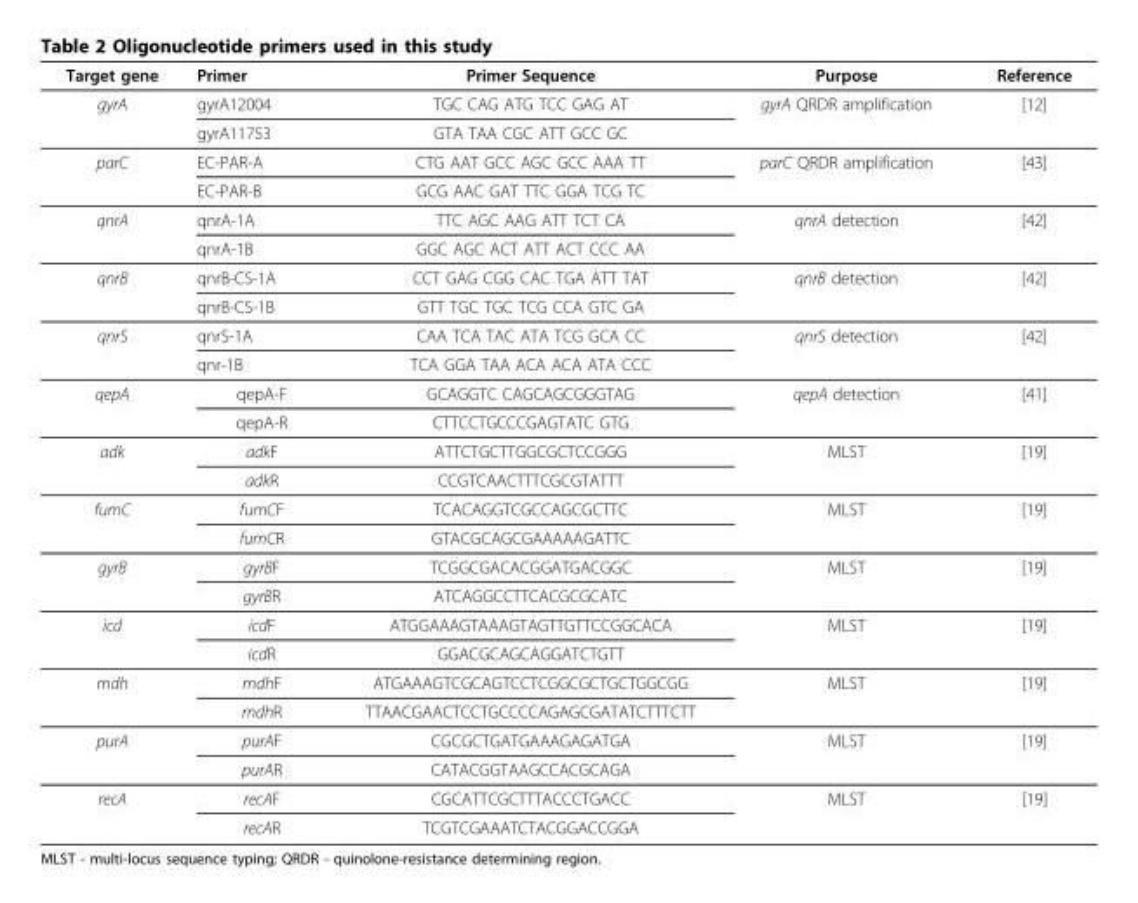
<table><thead><tr><td>Target gene</td><td>Primer</td><td>Primer Sequence</td><td>Purpose</td><td>Reference</td></tr></thead><tbody><tr><td rowspan="2">gyrA</td><td>gyrA12004</td><td>TGC CAG ATG TCC GAG AT</td><td>gyrA QRDR amplification</td><td>[12]</td></tr><tr><td>gyrA11753</td><td>GTA TAA CGC ATT GCC GC</td><td></td><td></td></tr><tr><td rowspan="2">parC</td><td>EC-PAR-A</td><td>CTG AAT GCC AGC GCC AAA TT</td><td>parC QRDR amplification</td><td>[43]</td></tr><tr><td>EC-PAR-B</td><td>GCG AAC GAT TTC GGA TCG TC</td><td></td><td></td></tr><tr><td rowspan="2">qnrA</td><td>qnrA-1A</td><td>TTC AGC AAG ATT TCT CA</td><td>qnrA detection</td><td>[42]</td></tr><tr><td>qnrA-1B</td><td>GGC AGC ACT ATT ACT CCC AA</td><td></td><td></td></tr><tr><td rowspan="2">qnrB</td><td>qnrB-CS-1A</td><td>CCT GAG CGG CAC TGA ATT TAT</td><td>qnrB detection</td><td>[42]</td></tr><tr><td>qnrB-CS-1B</td><td>GTT TGC TGC TCG CCA GTC GA</td><td></td><td></td></tr><tr><td rowspan="2">qnrS</td><td>qnrS-1A</td><td>CAA TCA TAC ATA TCG GCA CC</td><td>qnrS detection</td><td>[42]</td></tr><tr><td>qnr-1B</td><td>TCA GGA TAA ACA ACA ATA CCC</td><td></td><td></td></tr><tr><td rowspan="2">qepA</td><td>qepA-F</td><td>GCAGGTC CAGCAGCGGGTAG</td><td>qepA detection</td><td>[41]</td></tr><tr><td>qepA-R</td><td>CTTCCTGCCCGAGTATC GTG</td><td></td><td></td></tr><tr><td rowspan="2">adk</td><td>adkF</td><td>ATTCTGCTTGGCGCTCCGGG</td><td>MLST</td><td>[19]</td></tr><tr><td>adkR</td><td>CCGTCAACTTTCGCGTATTT</td><td></td><td></td></tr><tr><td rowspan="2">fumC</td><td>fumCF</td><td>TCACAGGTCGCCAGCGCTTC</td><td>MLST</td><td>[19]</td></tr><tr><td>fumCR</td><td>GTACGCAGCGAAAAAGATTC</td><td></td><td></td></tr><tr><td rowspan="2">gyrB</td><td>gyrBF</td><td>TCGGCGACACGGATGACGGC</td><td>MLST</td><td>[19]</td></tr><tr><td>gyrBR</td><td>ATCAGGCCTTCACGCGCATC</td><td></td><td></td></tr><tr><td rowspan="2">icd</td><td>icdF</td><td>ATGGAAAGTAAAGTAGTTGTTCCGGCACA</td><td>MLST</td><td>[19]</td></tr><tr><td>icdR</td><td>GGACGCAGCAGGATCTGTT</td><td></td><td></td></tr><tr><td rowspan="2">mdh</td><td>mdhF</td><td>ATGAAAGTCGCAGTCCTCGGCGCTGCTGGCGG</td><td>MLST</td><td>[19]</td></tr><tr><td>mdhR</td><td>TTAACGAACTCCTGCCCCAGAGCGATATCTTTCTT</td><td></td><td></td></tr><tr><td rowspan="2">purA</td><td>purAF</td><td>CGCGCTGATGAAAGAGATGA</td><td>MLST</td><td>[19]</td></tr><tr><td>purAR</td><td>CATACGGTAAGCCACGCAGA</td><td></td><td></td></tr><tr><td rowspan="2">recA</td><td>recAF</td><td>CGCATTCGCTTTACCCTGACC</td><td>MLST</td><td>[19]</td></tr><tr><td>recAR</td><td>TCGTCGAAATCTACGGACCGGA</td><td></td><td></td></tr></tbody></table>